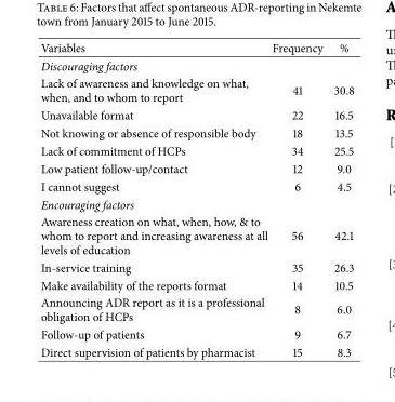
<table><thead><tr><td>Variables</td><td>Frequency</td><td>%</td></tr></thead><tbody><tr><td colspan="3">Discouraging factors</td></tr><tr><td>Lack of awareness and knowledge on what, when, and to whom to report</td><td>41</td><td>30.8</td></tr><tr><td>Unavailable format</td><td>22</td><td>16.5</td></tr><tr><td>Not knowing or absence of responsible body</td><td>18</td><td>13.5</td></tr><tr><td>Lack of commitment of HCPs</td><td>34</td><td>25.5</td></tr><tr><td>Low patient follow-up/contact</td><td>12</td><td>9.0</td></tr><tr><td>I cannot suggest</td><td>6</td><td>4.5</td></tr><tr><td colspan="3">Encouraging factors</td></tr><tr><td>Awareness creation on what, when, how, &amp; to whom to report and increasing awareness at all levels of education</td><td>56</td><td>42.1</td></tr><tr><td>In-service training</td><td>35</td><td>26.3</td></tr><tr><td>Make availability of the reports format</td><td>14</td><td>10.5</td></tr><tr><td>Announcing ADR report as it is a professional obligation of HCPs</td><td>8</td><td>6.0</td></tr><tr><td>Follow-up of patients</td><td>9</td><td>6.7</td></tr><tr><td>Direct supervision of patients by pharmacist</td><td>15</td><td>8.3</td></tr></tbody></table>